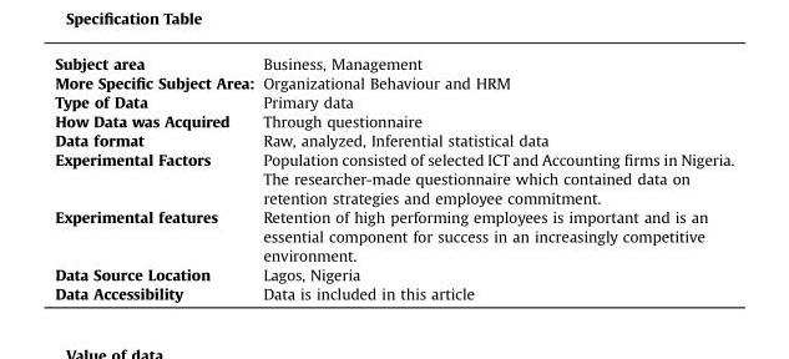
<table><tbody><tr><td>Subject area</td><td>Business, Management</td></tr><tr><td>More Specific Subject Area:</td><td>Organizational Behaviour and HRM</td></tr><tr><td>Type of Data</td><td>Primary data</td></tr><tr><td>How Data was Acquired</td><td>Through questionnaire</td></tr><tr><td>Data format</td><td>Raw, analyzed, Inferential statistical data</td></tr><tr><td>Experimental Factors</td><td>Population consisted of selected ICT and Accounting firms in Nigeria. The researcher-made questionnaire which contained data on retention strategies and employee commitment.</td></tr><tr><td>Experimental features</td><td>Retention of high performing employees is important and is an essential component for success in an increasingly competitive environment.</td></tr><tr><td>Data Source Location</td><td>Lagos, Nigeria</td></tr><tr><td>Data Accessibility</td><td>Data is included in this article</td></tr></tbody></table>